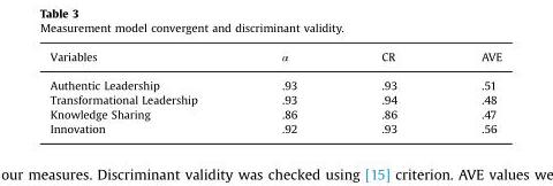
<table><thead><tr><td>Variables</td><td>α</td><td>CR</td><td>AVE</td></tr></thead><tbody><tr><td>Authentic Leadership</td><td>.93</td><td>.93</td><td>.51</td></tr><tr><td>Transformational Leadership</td><td>.93</td><td>.94</td><td>.48</td></tr><tr><td>Knowledge Sharing</td><td>.86</td><td>.86</td><td>.47</td></tr><tr><td>Innovation</td><td>.92</td><td>.93</td><td>.56</td></tr></tbody></table>